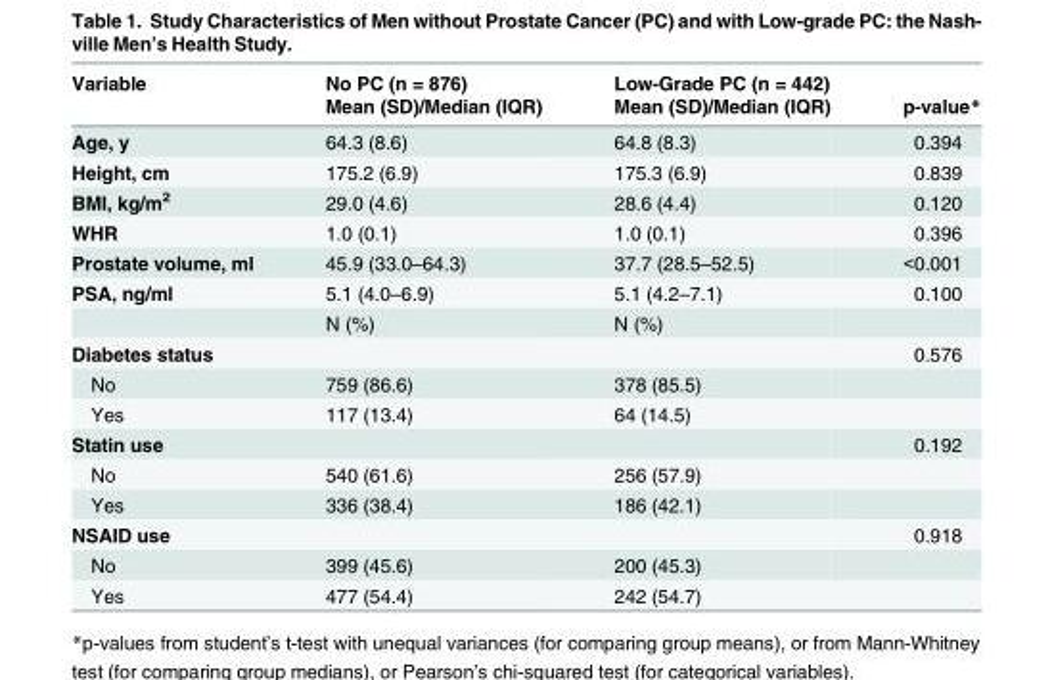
<table><thead><tr><td rowspan="2">Variable</td><td rowspan="2">No PC (n = 876) Mean (SD)/Median (IQR)</td><td rowspan="2">Low-Grade PC (n = 442) Mean (SD)/Median (IQR)</td><td rowspan="2">p-value*</td></tr><tr></tr></thead><tbody><tr><td>Age, y</td><td>64.3 (8.6)</td><td>64.8 (8.3)</td><td>0.394</td></tr><tr><td>Height, cm</td><td>175.2 (6.9)</td><td>175.3 (6.9)</td><td>0.839</td></tr><tr><td>BMI, kg/m<sup>2</sup></td><td>29.0 (4.6)</td><td>28.6 (4.4)</td><td>0.120</td></tr><tr><td>WHR</td><td>1.0 (0.1)</td><td>1.0 (0.1)</td><td>0.396</td></tr><tr><td>Prostate volume, ml</td><td>45.9 (33.0–64.3)</td><td>37.7 (28.5–52.5)</td><td>&lt;0.001</td></tr><tr><td rowspan="2">PSA, ng/ml</td><td>5.1 (4.0–6.9)</td><td>5.1 (4.2–7.1)</td><td>0.100</td></tr><tr><td>N (%)</td><td>N (%)</td><td></td></tr><tr><td>Diabetes status</td><td></td><td></td><td>0.576</td></tr><tr><td>No</td><td>759 (86.6)</td><td>378 (85.5)</td><td></td></tr><tr><td>Yes</td><td>117 (13.4)</td><td>64 (14.5)</td><td></td></tr><tr><td>Statin use</td><td></td><td></td><td>0.192</td></tr><tr><td>No</td><td>540 (61.6)</td><td>256 (57.9)</td><td></td></tr><tr><td>Yes</td><td>336 (38.4)</td><td>186 (42.1)</td><td></td></tr><tr><td>NSAID use</td><td></td><td></td><td>0.918</td></tr><tr><td>No</td><td>399 (45.6)</td><td>200 (45.3)</td><td></td></tr><tr><td>Yes</td><td>477 (54.4)</td><td>242 (54.7)</td><td></td></tr></tbody></table>